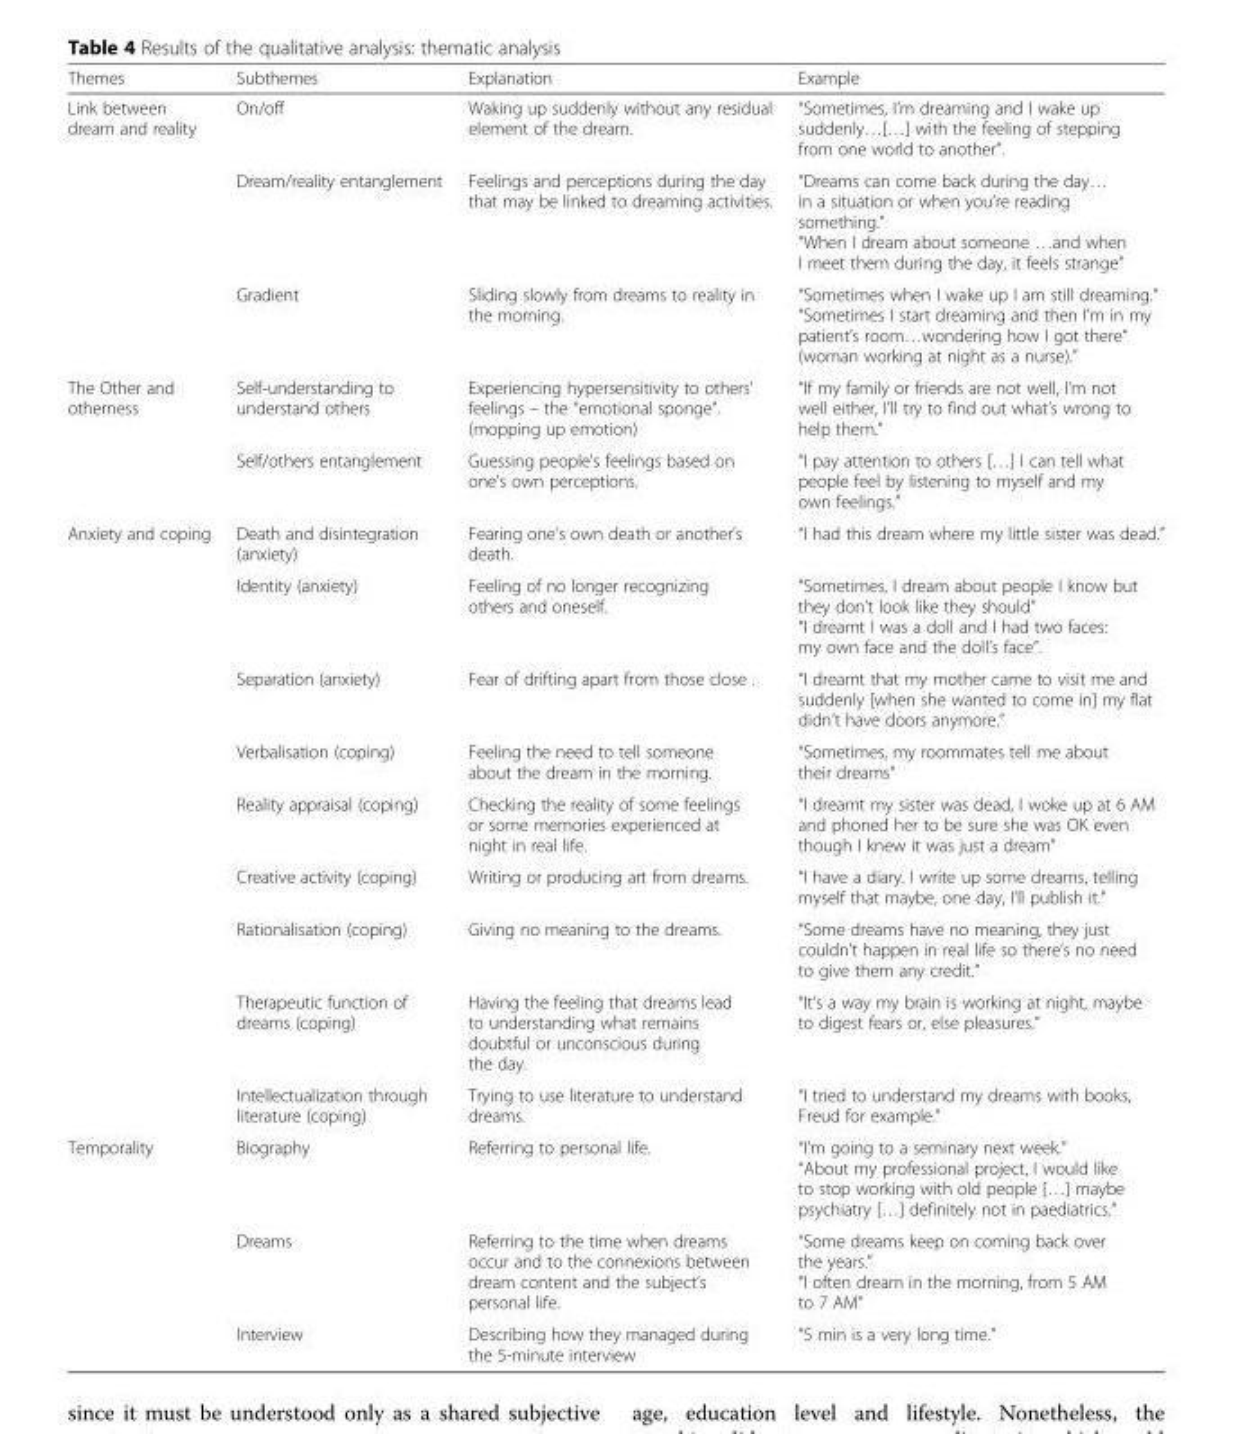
<table><thead><tr><td>Themes</td><td>Subthemes</td><td>Explanation</td><td>Example</td></tr></thead><tbody><tr><td rowspan="3">Link between dream and reality</td><td>On/off</td><td>Waking up suddenly without any residual element of the dream.</td><td>“Sometimes, I’m dreaming and I wake up suddenly…[…] with the feeling of stepping from one world to another”.</td></tr><tr><td>Dream/reality entanglement</td><td>Feelings and perceptions during the day that may be linked to dreaming activities.</td><td>“Dreams can come back during the day… in a situation or when you’re reading something.” “When I dream about someone …and when I meet them during the day, it feels strange”</td></tr><tr><td>Gradient</td><td>Sliding slowly from dreams to reality in the morning.</td><td>“Sometimes when I wake up I am still dreaming.” “Sometimes I start dreaming and then I’m in my patient’s room…wondering how I got there“ (woman working at night as a nurse).”</td></tr><tr><td rowspan="2">The Other and otherness</td><td>Self-understanding to understand others</td><td>Experiencing hypersensitivity to others’ feelings – the “emotional sponge”. (mopping up emotion)</td><td>“If my family or friends are not well, I’m not well either, I&#x27;ll try to find out what’s wrong to help them.”</td></tr><tr><td>Self/others entanglement</td><td>Guessing people’s feelings based on one’s own perceptions.</td><td>“I pay attention to others […] I can tell what people feel by listening to myself and my own feelings.”</td></tr><tr><td rowspan="9">Anxiety and coping</td><td>Death and disintegration (anxiety)</td><td>Fearing one’s own death or another’s death.</td><td>“I had this dream where my little sister was dead.”</td></tr><tr><td>Identity (anxiety)</td><td>Feeling of no longer recognizing others and oneself.</td><td>“Sometimes, I dream about people I know but they don’t look like they should” “I dreamt I was a doll and I had two faces: my own face and the doll’s face”.</td></tr><tr><td>Separation (anxiety)</td><td>Fear of drifting apart from those close .</td><td>“I dreamt that my mother came to visit me and suddenly [when she wanted to come in] my flat didn’t have doors anymore.”</td></tr><tr><td>Verbalisation (coping)</td><td>Feeling the need to tell someone about the dream in the morning.</td><td>“Sometimes, my roommates tell me about their dreams”</td></tr><tr><td>Reality appraisal (coping)</td><td>Checking the reality of some feelings or some memories experienced at night in real life.</td><td>“I dreamt my sister was dead, I woke up at 6 AM and phoned her to be sure she was OK even though I knew it was just a dream”</td></tr><tr><td>Creative activity (coping)</td><td>Writing or producing art from dreams.</td><td>“I have a diary. I write up some dreams, telling myself that maybe, one day, I’ll publish it.”</td></tr><tr><td>Rationalisation (coping)</td><td>Giving no meaning to the dreams.</td><td>“Some dreams have no meaning, they just couldn’t happen in real life so there’s no need to give them any credit.”</td></tr><tr><td>Therapeutic function of dreams (coping)</td><td>Having the feeling that dreams lead to understanding what remains doubtful or unconscious during the day.</td><td>“It’s a way my brain is working at night, maybe to digest fears or, else pleasures.”</td></tr><tr><td>Intellectualization through literature (coping)</td><td>Trying to use literature to understand dreams.</td><td>“I tried to understand my dreams with books, Freud for example.”</td></tr><tr><td rowspan="3">Temporality</td><td>Biography</td><td>Referring to personal life.</td><td>“I’m going to a seminary next week.” “About my professional project, I would like to stop working with old people […] maybe psychiatry […] definitely not in paediatrics.”</td></tr><tr><td>Dreams</td><td>Referring to the time when dreams occur and to the connexions between dream content and the subject’s personal life.</td><td>“Some dreams keep on coming back over the years.” “I often dream in the morning, from 5 AM to 7 AM”</td></tr><tr><td>Interview</td><td>Describing how they managed during the 5-minute interview</td><td>“5 min is a very long time.”</td></tr></tbody></table>